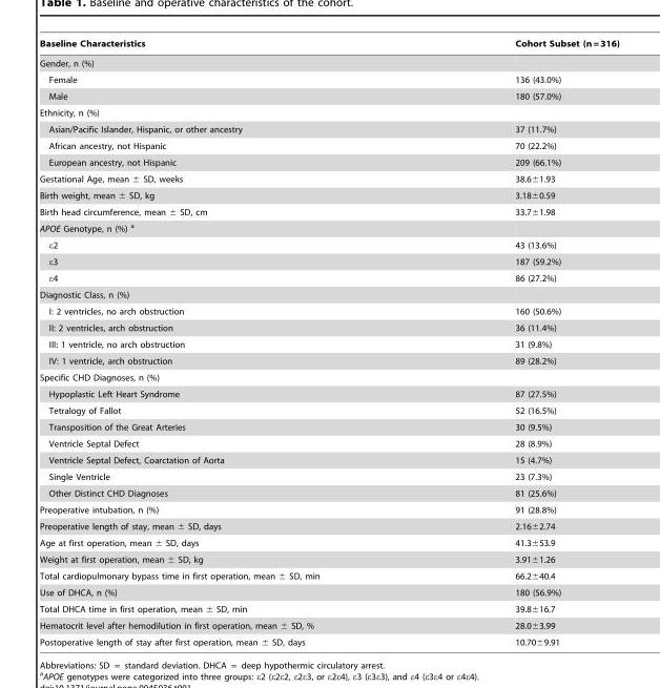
<table><thead><tr><td>Baseline Characteristics</td><td>Cohort Subset (n = 316)</td></tr></thead><tbody><tr><td colspan="2">Gender, n (%)</td></tr><tr><td>Female</td><td>136 (43.0%)</td></tr><tr><td>Male</td><td>180 (57.0%)</td></tr><tr><td colspan="2">Ethnicity, n (%)</td></tr><tr><td>Asian/Pacific Islander, Hispanic, or other ancestry</td><td>37 (11.7%)</td></tr><tr><td>African ancestry, not Hispanic</td><td>70 (22.2%)</td></tr><tr><td>European ancestry, not Hispanic</td><td>209 (66.1%)</td></tr><tr><td>Gestational Age, mean ± SD, weeks</td><td>38.6±1.93</td></tr><tr><td>Birth weight, mean ± SD, kg</td><td>3.18±0.59</td></tr><tr><td>Birth head circumference, mean ± SD, cm</td><td>33.7±1.98</td></tr><tr><td colspan="2">APOE Genotype, n (%) a</td></tr><tr><td>ε2</td><td>43 (13.6%)</td></tr><tr><td>ε3</td><td>187 (59.2%)</td></tr><tr><td>ε4</td><td>86 (27.2%)</td></tr><tr><td colspan="2">Diagnostic Class, n (%)</td></tr><tr><td>I: 2 ventricles, no arch obstruction</td><td>160 (50.6%)</td></tr><tr><td>II: 2 ventricles, arch obstruction</td><td>36 (11.4%)</td></tr><tr><td>III: 1 ventricle, no arch obstruction</td><td>31 (9.8%)</td></tr><tr><td>IV: 1 ventricle, arch obstruction</td><td>89 (28.2%)</td></tr><tr><td colspan="2">Specific CHD Diagnoses, n (%)</td></tr><tr><td>Hypoplastic Left Heart Syndrome</td><td>87 (27.5%)</td></tr><tr><td>Tetralogy of Fallot</td><td>52 (16.5%)</td></tr><tr><td>Transposition of the Great Arteries</td><td>30 (9.5%)</td></tr><tr><td>Ventricle Septal Defect</td><td>28 (8.9%)</td></tr><tr><td>Ventricle Septal Defect, Coarctation of Aorta</td><td>15 (4.7%)</td></tr><tr><td>Single Ventricle</td><td>23 (7.3%)</td></tr><tr><td>Other Distinct CHD Diagnoses</td><td>81 (25.6%)</td></tr><tr><td>Preoperative intubation, n (%)</td><td>91 (28.8%)</td></tr><tr><td>Preoperative length of stay, mean ± SD, days</td><td>2.16±2.74</td></tr><tr><td>Age at first operation, mean ± SD, days</td><td>41.3±53.9</td></tr><tr><td>Weight at first operation, mean ± SD, kg</td><td>3.91±1.26</td></tr><tr><td>Total cardiopulmonary bypass time in first operation, mean ± SD, min</td><td>66.2±40.4</td></tr><tr><td>Use of DHCA, n (%)</td><td>180 (56.9%)</td></tr><tr><td>Total DHCA time in first operation, mean ± SD, min</td><td>39.8±16.7</td></tr><tr><td>Hematocrit level after hemodilution in first operation, mean ± SD, %</td><td>28.0±3.99</td></tr><tr><td>Postoperative length of stay after first operation, mean ± SD, days</td><td>10.70±9.91</td></tr></tbody></table>